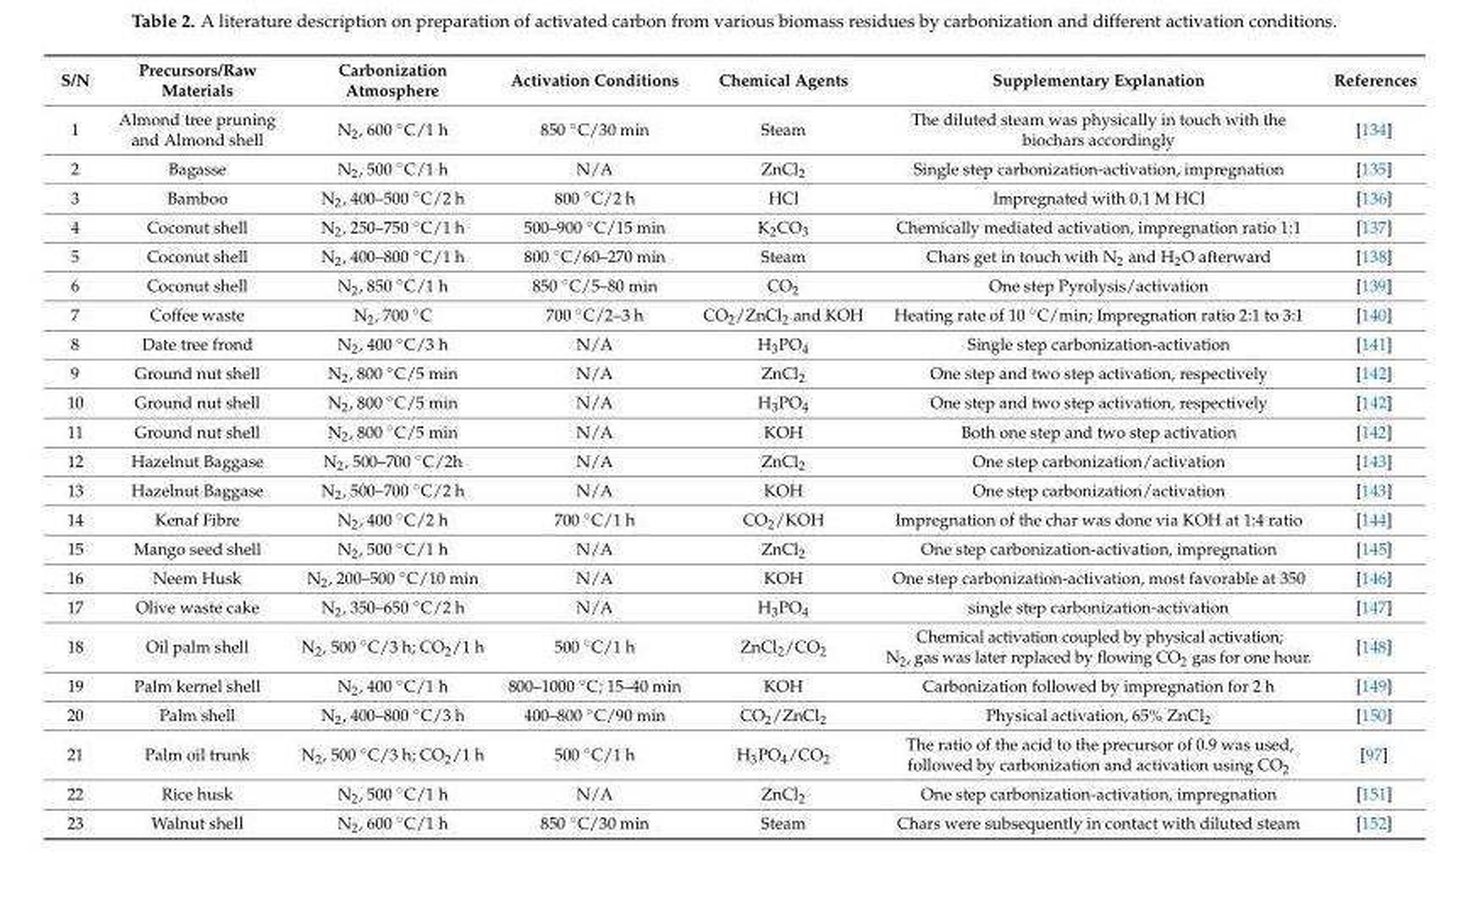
<table><thead><tr><td>S/N</td><td>Precursors/Raw Materials</td><td>Carbonization Atmosphere</td><td>Activation Conditions</td><td>Chemical Agents</td><td>Supplementary Explanation</td><td>References</td></tr></thead><tbody><tr><td>1</td><td>Almond tree pruning and Almond shell</td><td>N2, 600 ◦C/1 h</td><td>850 ◦C/30 min</td><td>Steam</td><td>The diluted steam was physically in touch with the biochars accordingly</td><td>[134]</td></tr><tr><td>2</td><td>Bagasse</td><td>N2, 500 ◦C/1 h</td><td>N/A</td><td>ZnCl<sub>2</sub></td><td>Single step carbonization-activation, impregnation</td><td>[135]</td></tr><tr><td>3</td><td>Bamboo</td><td>N2, 400–500 ◦C/2 h</td><td>800 ◦C/2 h</td><td>HCl</td><td>Impregnated with 0.1 M HCl</td><td>[136]</td></tr><tr><td>4</td><td>Coconut shell</td><td>N2, 250–750 ◦C/1 h</td><td>500–900 ◦C/15 min</td><td>K<sub>2</sub>CO<sub>3</sub></td><td>Chemically mediated activation, impregnation ratio 1:1</td><td>[137]</td></tr><tr><td>5</td><td>Coconut shell</td><td>N2, 400–800 ◦C/1 h</td><td>800 ◦C/60–270 min</td><td>Steam</td><td>Chars get in touch with N<sub>2</sub> and H<sub>2</sub>O afterward</td><td>[138]</td></tr><tr><td>6</td><td>Coconut shell</td><td>N2, 850 ◦C/1 h</td><td>850 ◦C/5–80 min</td><td>CO<sub>2</sub></td><td>One step Pyrolysis/activation</td><td>[139]</td></tr><tr><td>7</td><td>Coffee waste</td><td>N2, 700 ◦C</td><td>700 ◦C/2–3 h</td><td>CO<sub>2</sub>/ZnCl<sub>2</sub> and KOH</td><td>Heating rate of 10 ◦C/min; Impregnation ratio 2:1 to 3:1</td><td>[140]</td></tr><tr><td>8</td><td>Date tree frond</td><td>N2, 400 ◦C/3 h</td><td>N/A</td><td>H<sub>3</sub>PO<sub>4</sub></td><td>Single step carbonization-activation</td><td>[141]</td></tr><tr><td>9</td><td>Ground nut shell</td><td>N2, 800 ◦C/5 min</td><td>N/A</td><td>ZnCl<sub>2</sub></td><td>One step and two step activation, respectively</td><td>[142]</td></tr><tr><td>10</td><td>Ground nut shell</td><td>N2, 800 ◦C/5 min</td><td>N/A</td><td>H<sub>3</sub>PO<sub>4</sub></td><td>One step and two step activation, respectively</td><td>[142]</td></tr><tr><td>11</td><td>Ground nut shell</td><td>N2, 800 ◦C/5 min</td><td>N/A</td><td>KOH</td><td>Both one step and two step activation</td><td>[142]</td></tr><tr><td>12</td><td>Hazelnut Baggase</td><td>N2, 500–700 ◦C/2h</td><td>N/A</td><td>ZnCl<sub>2</sub></td><td>One step carbonization/activation</td><td>[143]</td></tr><tr><td>13</td><td>Hazelnut Baggase</td><td>N2, 500–700 ◦C/2 h</td><td>N/A</td><td>KOH</td><td>One step carbonization/activation</td><td>[143]</td></tr><tr><td>14</td><td>Kenaf Fibre</td><td>N2, 400 ◦C/2 h</td><td>700 ◦C/1 h</td><td>CO<sub>2</sub>/KOH</td><td>Impregnation of the char was done via KOH at 1:4 ratio</td><td>[144]</td></tr><tr><td>15</td><td>Mango seed shell</td><td>N2, 500 ◦C/1 h</td><td>N/A</td><td>ZnCl<sub>2</sub></td><td>One step carbonization-activation, impregnation</td><td>[145]</td></tr><tr><td>16</td><td>Neem Husk</td><td>N2, 200–500 ◦C/10 min</td><td>N/A</td><td>KOH</td><td>One step carbonization-activation, most favorable at 350</td><td>[146]</td></tr><tr><td>17</td><td>Olive waste cake</td><td>N2, 350–650 ◦C/2 h</td><td>N/A</td><td>H<sub>3</sub>PO<sub>4</sub></td><td>single step carbonization-activation</td><td>[147]</td></tr><tr><td>18</td><td>Oil palm shell</td><td>N2, 500 ◦C/3 h; CO2/1 h</td><td>500 ◦C/1 h</td><td>ZnCl<sub>2</sub>/CO<sub>2</sub></td><td>Chemical activation coupled by physical activation; N<sub>2</sub>, gas was later replaced by flowing CO<sub>2</sub> gas for one hour.</td><td>[148]</td></tr><tr><td>19</td><td>Palm kernel shell</td><td>N2, 400 ◦C/1 h</td><td>800–1000 ◦C; 15–40 min</td><td>KOH</td><td>Carbonization followed by impregnation for 2 h</td><td>[149]</td></tr><tr><td>20</td><td>Palm shell</td><td>N2, 400–800 ◦C/3 h</td><td>400–800 ◦C/90 min</td><td>CO<sub>2</sub>/ZnCl<sub>2</sub></td><td>Physical activation, 65% ZnCl<sub>2</sub></td><td>[150]</td></tr><tr><td>21</td><td>Palm oil trunk</td><td>N2, 500 ◦C/3 h; CO2/1 h</td><td>500 ◦C/1 h</td><td>H<sub>3</sub>PO<sub>4</sub>/CO<sub>2</sub></td><td>The ratio of the acid to the precursor of 0.9 was used, followed by carbonization and activation using CO<sub>2</sub></td><td>[97]</td></tr><tr><td>22</td><td>Rice husk</td><td>N2, 500 ◦C/1 h</td><td>N/A</td><td>ZnCl<sub>2</sub></td><td>One step carbonization-activation, impregnation</td><td>[151]</td></tr><tr><td>23</td><td>Walnut shell</td><td>N2, 600 ◦C/1 h</td><td>850 ◦C/30 min</td><td>Steam</td><td>Chars were subsequently in contact with diluted steam</td><td>[152]</td></tr></tbody></table>